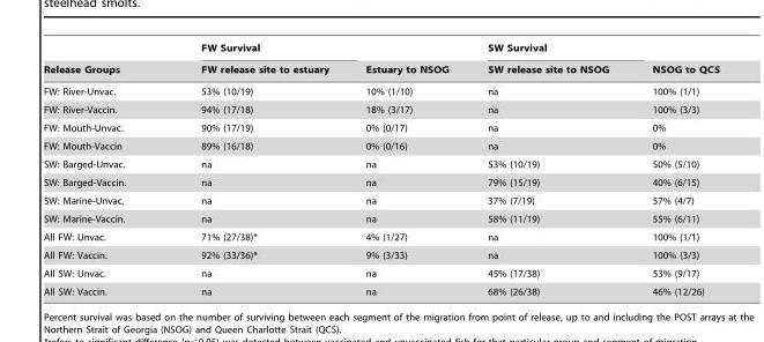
<table><thead><tr><td rowspan="2">Release Groups</td><td rowspan="2">FW Survival FW release site to estuary</td><td rowspan="2">Estuary to NSOG</td><td rowspan="2">SW Survival SW release site to NSOG</td><td rowspan="2">NSOG to QCS</td></tr><tr></tr></thead><tbody><tr><td>FW: River-Unvac.</td><td>53% (10/19)</td><td>10% (1/10)</td><td>na</td><td>100% (1/1)</td></tr><tr><td>FW: River-Vaccin.</td><td>94% (17/18)</td><td>18% (3/17)</td><td>na</td><td>100% (3/3)</td></tr><tr><td>FW: Mouth-Unvac.</td><td>90% (17/19)</td><td>0% (0/17)</td><td>na</td><td>0%</td></tr><tr><td>FW: Mouth-Vaccin</td><td>89% (16/18)</td><td>0% (0/16)</td><td>na</td><td>0%</td></tr><tr><td>SW: Barged-Unvac.</td><td>na</td><td>na</td><td>53% (10/19)</td><td>50% (5/10)</td></tr><tr><td>SW: Barged-Vaccin.</td><td>na</td><td>na</td><td>79% (15/19)</td><td>40% (6/15)</td></tr><tr><td>SW: Marine-Unvac.</td><td>na</td><td>na</td><td>37% (7/19)</td><td>57% (4/7)</td></tr><tr><td>SW: Marine-Vaccin.</td><td>na</td><td>na</td><td>58% (11/19)</td><td>55% (6/11)</td></tr><tr><td>All FW: Unvac.</td><td>71% (27/38)*</td><td>4% (1/27)</td><td>na</td><td>100% (1/1)</td></tr><tr><td>All FW: Vaccin.</td><td>92% (33/36)*</td><td>9% (3/33)</td><td>na</td><td>100% (3/3)</td></tr><tr><td>All SW: Unvac.</td><td>na</td><td>na</td><td>45% (17/38)</td><td>53% (9/17)</td></tr><tr><td>All SW: Vaccin.</td><td>na</td><td>na</td><td>68% (26/38)</td><td>46% (12/26)</td></tr></tbody></table>